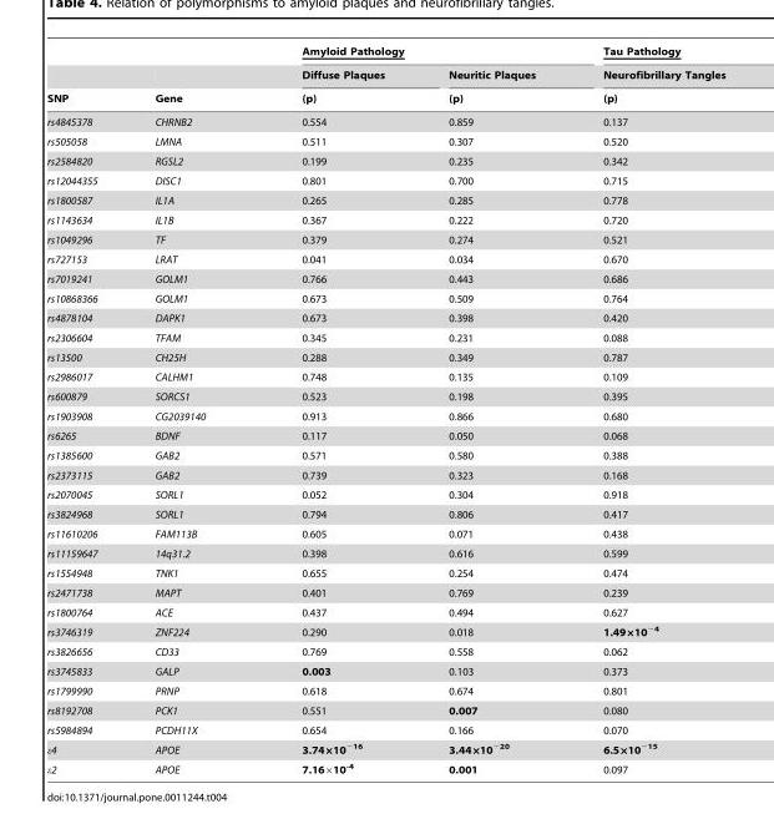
<table><thead><tr><td rowspan="3">SNP</td><td rowspan="3">Gene</td><td colspan="2">Amyloid Pathology</td><td rowspan="3">Tau Pathology Neurofibrillary Tangles (p)</td></tr><tr><td rowspan="2">Diffuse Plaques (p)</td><td rowspan="2">Neuritic Plaques (p)</td></tr><tr></tr></thead><tbody><tr><td>rs4845378</td><td>CHRNB2</td><td>0.554</td><td>0.859</td><td>0.137</td></tr><tr><td>rs505058</td><td>LMNA</td><td>0.511</td><td>0.307</td><td>0.520</td></tr><tr><td>rs2584820</td><td>RGSL2</td><td>0.199</td><td>0.235</td><td>0.342</td></tr><tr><td>rs12044355</td><td>DISC1</td><td>0.801</td><td>0.700</td><td>0.715</td></tr><tr><td>rs1800587</td><td>IL1A</td><td>0.265</td><td>0.285</td><td>0.778</td></tr><tr><td>rs1143634</td><td>IL1B</td><td>0.367</td><td>0.222</td><td>0.720</td></tr><tr><td>rs1049296</td><td>TF</td><td>0.379</td><td>0.274</td><td>0.521</td></tr><tr><td>rs727153</td><td>LRAT</td><td>0.041</td><td>0.034</td><td>0.670</td></tr><tr><td>rs7019241</td><td>GOLM1</td><td>0.766</td><td>0.443</td><td>0.686</td></tr><tr><td>rs10868366</td><td>GOLM1</td><td>0.673</td><td>0.509</td><td>0.764</td></tr><tr><td>rs4878104</td><td>DAPK1</td><td>0.673</td><td>0.398</td><td>0.420</td></tr><tr><td>rs2306604</td><td>TFAM</td><td>0.345</td><td>0.231</td><td>0.088</td></tr><tr><td>rs13500</td><td>CH25H</td><td>0.288</td><td>0.349</td><td>0.787</td></tr><tr><td>rs2986017</td><td>CALHM1</td><td>0.748</td><td>0.135</td><td>0.109</td></tr><tr><td>rs600879</td><td>SORCS1</td><td>0.523</td><td>0.198</td><td>0.395</td></tr><tr><td>rs1903908</td><td>CG2039140</td><td>0.913</td><td>0.866</td><td>0.680</td></tr><tr><td>rs6265</td><td>BDNF</td><td>0.117</td><td>0.050</td><td>0.068</td></tr><tr><td>rs1385600</td><td>GAB2</td><td>0.571</td><td>0.580</td><td>0.388</td></tr><tr><td>rs2373115</td><td>GAB2</td><td>0.739</td><td>0.323</td><td>0.168</td></tr><tr><td>rs2070045</td><td>SORL1</td><td>0.052</td><td>0.304</td><td>0.918</td></tr><tr><td>rs3824968</td><td>SORL1</td><td>0.794</td><td>0.806</td><td>0.417</td></tr><tr><td>rs11610206</td><td>FAM113B</td><td>0.605</td><td>0.071</td><td>0.438</td></tr><tr><td>rs11159647</td><td>14q31.2</td><td>0.398</td><td>0.616</td><td>0.599</td></tr><tr><td>rs1554948</td><td>TNK1</td><td>0.655</td><td>0.254</td><td>0.474</td></tr><tr><td>rs2471738</td><td>MAPT</td><td>0.401</td><td>0.769</td><td>0.239</td></tr><tr><td>rs1800764</td><td>ACE</td><td>0.437</td><td>0.494</td><td>0.627</td></tr><tr><td>rs3746319</td><td>ZNF224</td><td>0.290</td><td>0.018</td><td>1.49×10<sup>−4</sup></td></tr><tr><td>rs3826656</td><td>CD33</td><td>0.769</td><td>0.558</td><td>0.062</td></tr><tr><td>rs3745833</td><td>GALP</td><td>0.003</td><td>0.103</td><td>0.373</td></tr><tr><td>rs1799990</td><td>PRNP</td><td>0.618</td><td>0.674</td><td>0.801</td></tr><tr><td>rs8192708</td><td>PCK1</td><td>0.551</td><td>0.007</td><td>0.080</td></tr><tr><td>rs5984894</td><td>PCDH11X</td><td>0.654</td><td>0.166</td><td>0.070</td></tr><tr><td>ε4</td><td>APOE</td><td>3.74×10<sup>−16</sup></td><td>3.44×10<sup>−20</sup></td><td>6.5×10<sup>−15</sup></td></tr><tr><td>ε2</td><td>APOE</td><td>7.16×10<sup>-4</sup></td><td>0.001</td><td>0.097</td></tr></tbody></table>